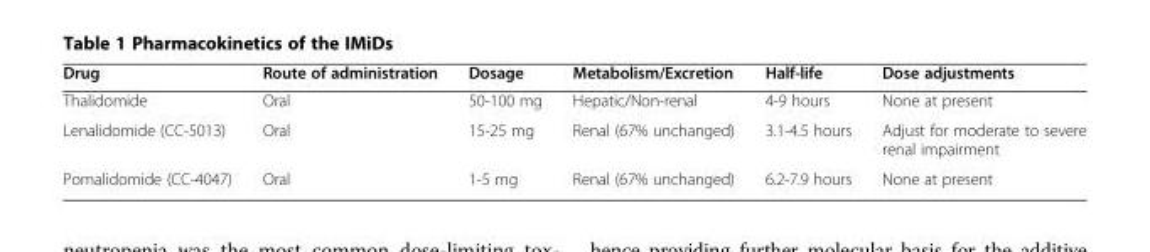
<table><thead><tr><td>Drug</td><td>Route of administration</td><td>Dosage</td><td>Metabolism/Excretion</td><td>Half-life</td><td>Dose adjustments</td></tr></thead><tbody><tr><td>Thalidomide</td><td>Oral</td><td>50-100 mg</td><td>Hepatic/Non-renal</td><td>4-9 hours</td><td>None at present</td></tr><tr><td>Lenalidomide (CC-5013)</td><td>Oral</td><td>15-25 mg</td><td>Renal (67% unchanged)</td><td>3.1-4.5 hours</td><td>Adjust for moderate to severe renal impairment</td></tr><tr><td>Pomalidomide (CC-4047)</td><td>Oral</td><td>1-5 mg</td><td>Renal (67% unchanged)</td><td>6.2-7.9 hours</td><td>None at present</td></tr></tbody></table>